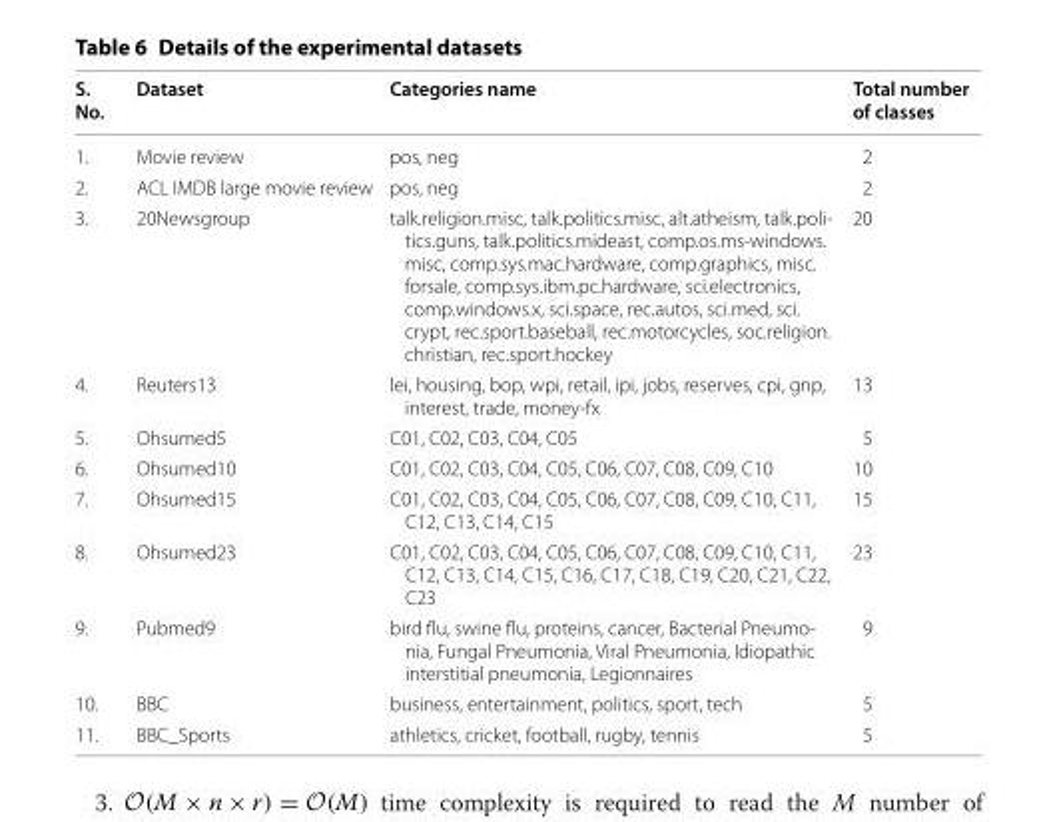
<table><thead><tr><td>S. No.</td><td>Dataset</td><td>Categories name</td><td>Total number of classes</td></tr></thead><tbody><tr><td>1.</td><td>Movie review</td><td>pos, neg</td><td>2</td></tr><tr><td>2.</td><td>ACL IMDB large movie review</td><td>pos, neg</td><td>2</td></tr><tr><td>3.</td><td>20Newsgroup</td><td>talk.religion.misc, talk.politics.misc, alt.atheism, talk.poli- tics.guns, talk.politics.mideast, comp.os.ms-windows. misc, comp.sys.mac.hardware, comp.graphics, misc. forsale, comp.sys.ibm.pc.hardware, sci.electronics, comp.windows.x, sci.space, rec.autos, sci.med, sci. crypt, rec.sport.baseball, rec.motorcycles, soc.religion. christian, rec.sport.hockey</td><td>20</td></tr><tr><td>4.</td><td>Reuters13</td><td>lei, housing, bop, wpi, retail, ipi, jobs, reserves, cpi, gnp, interest, trade, money-fx</td><td>13</td></tr><tr><td>5.</td><td>Ohsumed5</td><td>C01, C02, C03, C04, C05</td><td>5</td></tr><tr><td>6.</td><td>Ohsumed10</td><td>C01, C02, C03, C04, C05, C06, C07, C08, C09, C10</td><td>10</td></tr><tr><td>7.</td><td>Ohsumed15</td><td>C01, C02, C03, C04, C05, C06, C07, C08, C09, C10, C11, C12, C13, C14, C15</td><td>15</td></tr><tr><td>8.</td><td>Ohsumed23</td><td>C01, C02, C03, C04, C05, C06, C07, C08, C09, C10, C11, C12, C13, C14, C15, C16, C17, C18, C19, C20, C21, C22, C23</td><td>23</td></tr><tr><td>9.</td><td>Pubmed9</td><td>bird flu, swine flu, proteins, cancer, Bacterial Pneumo- nia, Fungal Pneumonia, Viral Pneumonia, Idiopathic interstitial pneumonia, Legionnaires</td><td>9</td></tr><tr><td>10.</td><td>BBC</td><td>business, entertainment, politics, sport, tech</td><td>5</td></tr><tr><td>11.</td><td>BBC_Sports</td><td>athletics, cricket, football, rugby, tennis</td><td>5</td></tr></tbody></table>